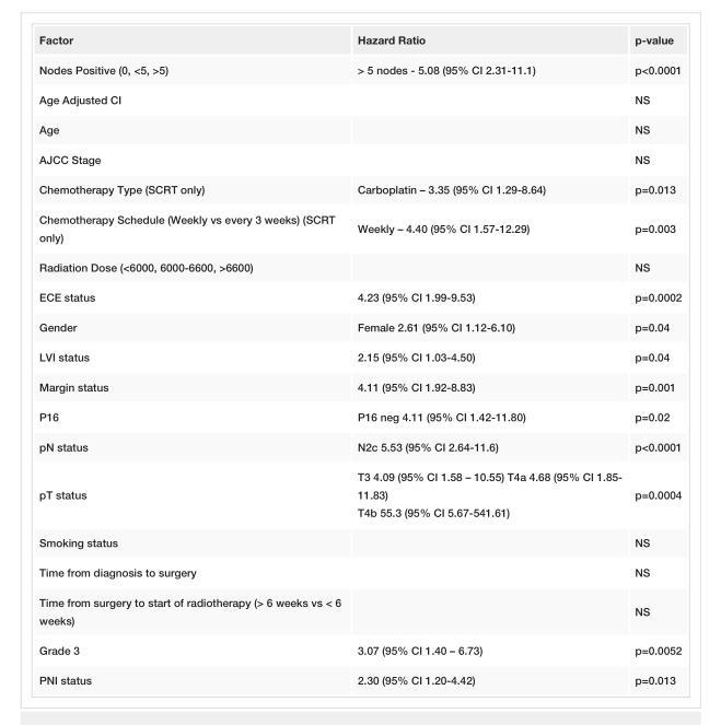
<table><tbody><tr><td>Factor</td><td>Hazard Ratio</td><td>p-value</td></tr><tr><td>Nodes Positive (0, &lt;5, &gt;5)</td><td>&gt; 5 nodes - 5.08 (95% CI 2.31-11.1)</td><td>p&lt;0.0001</td></tr><tr><td>Age Adjusted CI</td><td></td><td>NS</td></tr><tr><td>Age</td><td></td><td>NS</td></tr><tr><td>AJCC Stage</td><td></td><td>NS</td></tr><tr><td>Chemotherapy Type (SCRT only)</td><td>Carboplatin – 3.35 (95% CI 1.29-8.64)</td><td>p=0.013</td></tr><tr><td>Chemotherapy Schedule (Weekly vs every 3 weeks) (SCRT only)</td><td>Weekly – 4.40 (95% CI 1.57-12.29)</td><td>p=0.003</td></tr><tr><td>Radiation Dose (&lt;6000, 6000-6600, &gt;6600)</td><td></td><td>NS</td></tr><tr><td>ECE status</td><td>4.23 (95% CI 1.99-9.53)</td><td>p=0.0002</td></tr><tr><td>Gender</td><td>Female 2.61 (95% CI 1.12-6.10)</td><td>p=0.04</td></tr><tr><td>LVI status</td><td>2.15 (95% CI 1.03-4.50)</td><td>p=0.04</td></tr><tr><td>Margin status</td><td>4.11 (95% CI 1.92-8.83)</td><td>p=0.001</td></tr><tr><td>P16</td><td>P16 neg 4.11 (95% CI 1.42-11.80)</td><td>p=0.02</td></tr><tr><td>pN status</td><td>N2c 5.53 (95% CI 2.64-11.6)</td><td>p&lt;0.0001</td></tr><tr><td>pT status</td><td>T3 4.09 (95% CI 1.58 – 10.55) T4a 4.68 (95% CI 1.85- 11.83) T4b 55.3 (95% CI 5.67-541.61)</td><td>p=0.0004</td></tr><tr><td>Smoking status</td><td></td><td>NS</td></tr><tr><td>Time from diagnosis to surgery</td><td></td><td>NS</td></tr><tr><td>Time from surgery to start of radiotherapy (&gt; 6 weeks vs &lt; 6 weeks)</td><td></td><td>NS</td></tr><tr><td>Grade 3</td><td>3.07 (95% CI 1.40 – 6.73)</td><td>p=0.0052</td></tr><tr><td>PNI status</td><td>2.30 (95% CI 1.20-4.42)</td><td>p=0.013</td></tr></tbody></table>